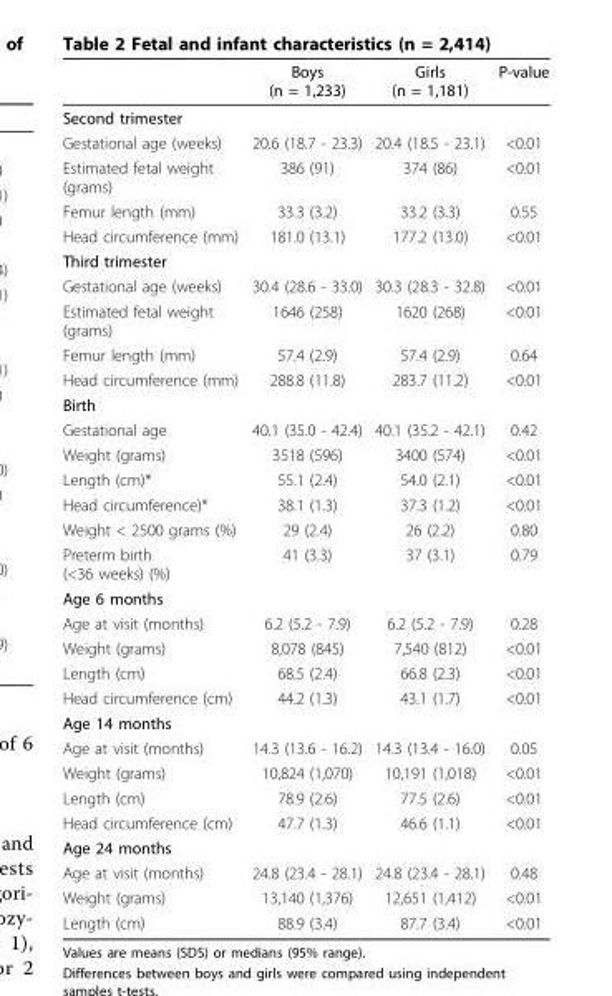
<table><thead><tr><td></td><td>Boys (n = 1,233)</td><td>Girls (n = 1,181)</td><td>P-value</td></tr></thead><tbody><tr><td colspan="4">Second trimester</td></tr><tr><td>Gestational age (weeks)</td><td>20.6 (18.7 - 23.3)</td><td>20.4 (18.5 - 23.1)</td><td>&lt;0.01</td></tr><tr><td>Estimated fetal weight (grams)</td><td>386 (91)</td><td>374 (86)</td><td>&lt;0.01</td></tr><tr><td>Femur length (mm)</td><td>33.3 (3.2)</td><td>33.2 (3.3)</td><td>0.55</td></tr><tr><td>Head circumference (mm)</td><td>181.0 (13.1)</td><td>177.2 (13.0)</td><td>&lt;0.01</td></tr><tr><td colspan="4">Third trimester</td></tr><tr><td>Gestational age (weeks)</td><td>30.4 (28.6 - 33.0)</td><td>30.3 (28.3 - 32.8)</td><td>&lt;0.01</td></tr><tr><td>Estimated fetal weight (grams)</td><td>1646 (258)</td><td>1620 (268)</td><td>&lt;0.01</td></tr><tr><td>Femur length (mm)</td><td>57.4 (2.9)</td><td>57.4 (2.9)</td><td>0.64</td></tr><tr><td>Head circumference (mm)</td><td>288.8 (11.8)</td><td>283.7 (11.2)</td><td>&lt;0.01</td></tr><tr><td colspan="4">Birth</td></tr><tr><td>Gestational age</td><td>40.1 (35.0 - 42.4)</td><td>40.1 (35.2 - 42.1)</td><td>0.42</td></tr><tr><td>Weight (grams)</td><td>3518 (596)</td><td>3400 (574)</td><td>&lt;0.01</td></tr><tr><td>Length (cm)*</td><td>55.1 (2.4)</td><td>54.0 (2.1)</td><td>&lt;0.01</td></tr><tr><td>Head circumference)*</td><td>38.1 (1.3)</td><td>37.3 (1.2)</td><td>&lt;0.01</td></tr><tr><td>Weight &lt; 2500 grams (%)</td><td>29 (2.4)</td><td>26 (2.2)</td><td>0.80</td></tr><tr><td>Preterm birth (&lt;36 weeks) (%)</td><td>41 (3.3)</td><td>37 (3.1)</td><td>0.79</td></tr><tr><td colspan="4">Age 6 months</td></tr><tr><td>Age at visit (months)</td><td>6.2 (5.2 - 7.9)</td><td>6.2 (5.2 - 7.9)</td><td>0.28</td></tr><tr><td>Weight (grams)</td><td>8,078 (845)</td><td>7,540 (812)</td><td>&lt;0.01</td></tr><tr><td>Length (cm)</td><td>68.5 (2.4)</td><td>66.8 (2.3)</td><td>&lt;0.01</td></tr><tr><td>Head circumference (cm)</td><td>44.2 (1.3)</td><td>43.1 (1.7)</td><td>&lt;0.01</td></tr><tr><td colspan="4">Age 14 months</td></tr><tr><td>Age at visit (months)</td><td>14.3 (13.6 - 16.2)</td><td>14.3 (13.4 - 16.0)</td><td>0.05</td></tr><tr><td>Weight (grams)</td><td>10,824 (1,070)</td><td>10,191 (1,018)</td><td>&lt;0.01</td></tr><tr><td>Length (cm)</td><td>78.9 (2.6)</td><td>77.5 (2.6)</td><td>&lt;0.01</td></tr><tr><td>Head circumference (cm)</td><td>47.7 (1.3)</td><td>46.6 (1.1)</td><td>&lt;0.01</td></tr><tr><td colspan="4">Age 24 months</td></tr><tr><td>Age at visit (months)</td><td>24.8 (23.4 - 28.1)</td><td>24.8 (23.4 - 28.1)</td><td>0.48</td></tr><tr><td>Weight (grams)</td><td>13,140 (1,376)</td><td>12,651 (1,412)</td><td>&lt;0.01</td></tr><tr><td>Length (cm)</td><td>88.9 (3.4)</td><td>87.7 (3.4)</td><td>&lt;0.01</td></tr></tbody></table>